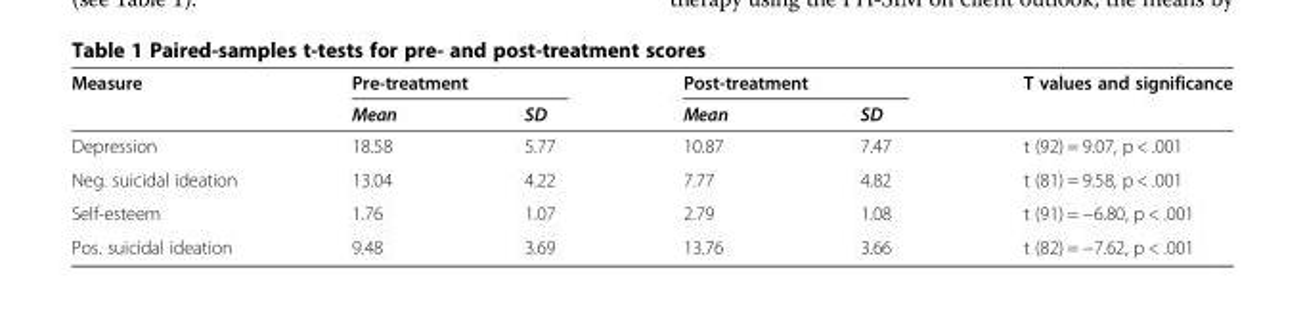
<table><thead><tr><td rowspan="2">Measure</td><td colspan="2">Pre-treatment</td><td colspan="2">Post-treatment</td><td rowspan="2">T values and significance</td></tr><tr><td>Mean</td><td>SD</td><td>Mean</td><td>SD</td></tr></thead><tbody><tr><td>Depression</td><td>18.58</td><td>5.77</td><td>10.87</td><td>7.47</td><td>t (92) = 9.07, p &lt; .001</td></tr><tr><td>Neg. suicidal ideation</td><td>13.04</td><td>4.22</td><td>7.77</td><td>4.82</td><td>t (81) = 9.58, p &lt; .001</td></tr><tr><td>Self-esteem</td><td>1.76</td><td>1.07</td><td>2.79</td><td>1.08</td><td>t (91) = −6.80, p &lt; .001</td></tr><tr><td>Pos. suicidal ideation</td><td>9.48</td><td>3.69</td><td>13.76</td><td>3.66</td><td>t (82) = −7.62, p &lt; .001</td></tr></tbody></table>